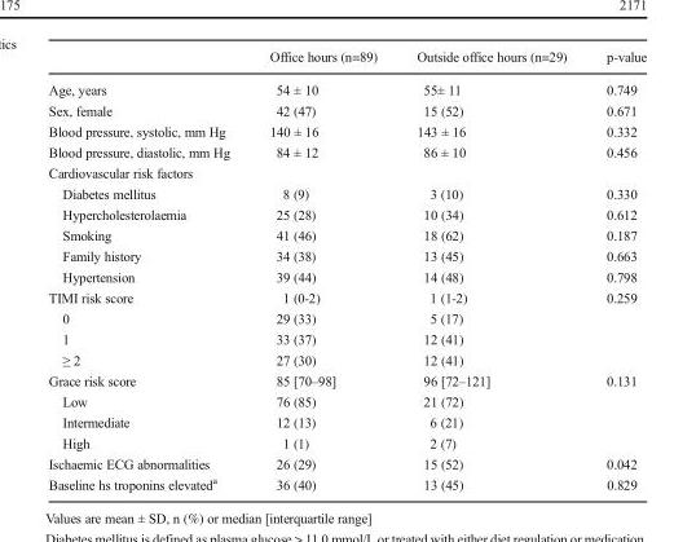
<table><thead><tr><td></td><td>Office hours (n=89)</td><td>Outside office hours (n=29)</td><td>p-value</td></tr></thead><tbody><tr><td>Age, years</td><td>54 ± 10</td><td>55± 11</td><td>0.749</td></tr><tr><td>Sex, female</td><td>42 (47)</td><td>15 (52)</td><td>0.671</td></tr><tr><td>Blood pressure, systolic, mm Hg</td><td>140 ± 16</td><td>143 ± 16</td><td>0.332</td></tr><tr><td>Blood pressure, diastolic, mm Hg</td><td>84 ± 12</td><td>86 ± 10</td><td>0.456</td></tr><tr><td colspan="4">Cardiovascular risk factors</td></tr><tr><td>Diabetes mellitus</td><td>8 (9)</td><td>3 (10)</td><td>0.330</td></tr><tr><td>Hypercholesterolaemia</td><td>25 (28)</td><td>10 (34)</td><td>0.612</td></tr><tr><td>Smoking</td><td>41 (46)</td><td>18 (62)</td><td>0.187</td></tr><tr><td>Family history</td><td>34 (38)</td><td>13 (45)</td><td>0.663</td></tr><tr><td>Hypertension</td><td>39 (44)</td><td>14 (48)</td><td>0.798</td></tr><tr><td>TIMI risk score</td><td>1 (0-2)</td><td>1 (1-2)</td><td>0.259</td></tr><tr><td>0</td><td>29 (33)</td><td>5 (17)</td><td></td></tr><tr><td>1</td><td>33 (37)</td><td>12 (41)</td><td></td></tr><tr><td>≥ 2</td><td>27 (30)</td><td>12 (41)</td><td></td></tr><tr><td>Grace risk score</td><td>85 [70–98]</td><td>96 [72–121]</td><td>0.131</td></tr><tr><td>Low</td><td>76 (85)</td><td>21 (72)</td><td></td></tr><tr><td>Intermediate</td><td>12 (13)</td><td>6 (21)</td><td></td></tr><tr><td>High</td><td>1 (1)</td><td>2 (7)</td><td></td></tr><tr><td>Ischaemic ECG abnormalities</td><td>26 (29)</td><td>15 (52)</td><td>0.042</td></tr><tr><td>Baseline hs troponins elevated<sup>a</sup></td><td>36 (40)</td><td>13 (45)</td><td>0.829</td></tr></tbody></table>